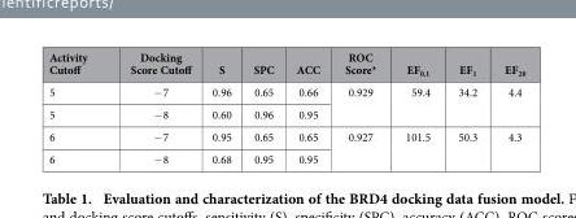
<table><thead><tr><td>Activity Cutoff</td><td>Docking Score Cutoff</td><td>S</td><td>SPC</td><td>ACC</td><td>ROC Score*</td><td>EF<sub>0.1</sub></td><td>EF<sub>1</sub></td><td>EF<sub>20</sub></td></tr></thead><tbody><tr><td>5</td><td>− 7</td><td>0.96</td><td>0.65</td><td>0.66</td><td rowspan="2">0.929</td><td rowspan="2">59.4</td><td rowspan="2">34.2</td><td rowspan="2">4.4</td></tr><tr><td>5</td><td>− 8</td><td>0.60</td><td>0.96</td><td>0.95</td></tr><tr><td>6</td><td>− 7</td><td>0.95</td><td>0.65</td><td>0.65</td><td rowspan="2">0.927</td><td rowspan="2">101.5</td><td rowspan="2">50.3</td><td rowspan="2">4.3</td></tr><tr><td>6</td><td>− 8</td><td>0.68</td><td>0.95</td><td>0.95</td></tr></tbody></table>